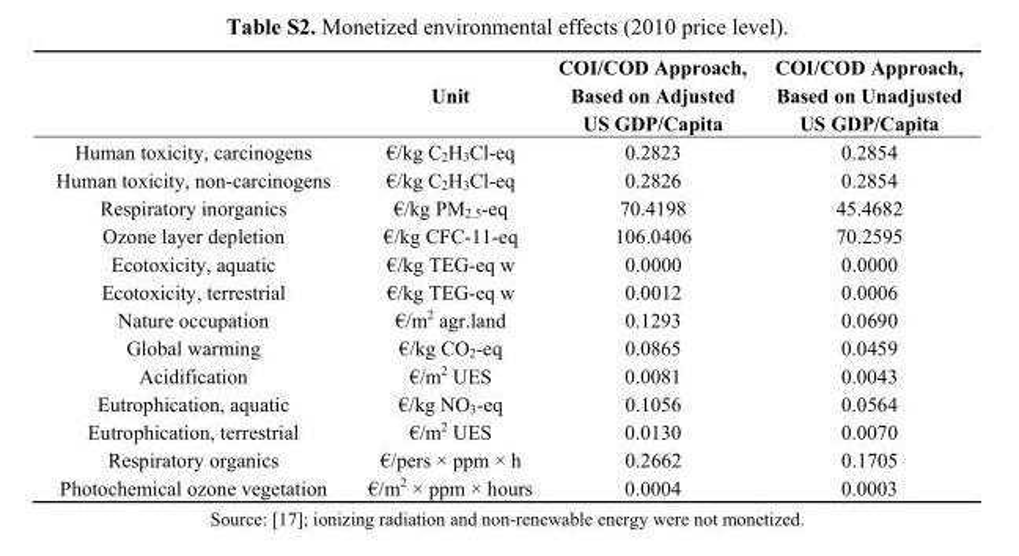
<table><thead><tr><td></td><td>Unit</td><td>COI/COD Approach, Based on Adjusted US GDP/Capita</td><td>COI/COD Approach, Based on Unadjusted US GDP/Capita</td></tr></thead><tbody><tr><td>Human toxicity, carcinogens</td><td>€/kg C<sub>2</sub>H<sub>3</sub>Cl-eq</td><td>0.2823</td><td>0.2854</td></tr><tr><td>Human toxicity, non-carcinogens</td><td>€/kg C<sub>2</sub>H<sub>3</sub>Cl-eq</td><td>0.2826</td><td>0.2854</td></tr><tr><td>Respiratory inorganics</td><td>€/kg PM<sub>2.5</sub>-eq</td><td>70.4198</td><td>45.4682</td></tr><tr><td>Ozone layer depletion</td><td>€/kg CFC-11-eq</td><td>106.0406</td><td>70.2595</td></tr><tr><td>Ecotoxicity, aquatic</td><td>€/kg TEG-eq w</td><td>0.0000</td><td>0.0000</td></tr><tr><td>Ecotoxicity, terrestrial</td><td>€/kg TEG-eq w</td><td>0.0012</td><td>0.0006</td></tr><tr><td>Nature occupation</td><td>€/m<sup>2</sup> agr.land</td><td>0.1293</td><td>0.0690</td></tr><tr><td>Global warming</td><td>€/kg CO<sub>2</sub>-eq</td><td>0.0865</td><td>0.0459</td></tr><tr><td>Acidification</td><td>€/m<sup>2</sup> UES</td><td>0.0081</td><td>0.0043</td></tr><tr><td>Eutrophication, aquatic</td><td>€/kg NO<sub>3</sub>-eq</td><td>0.1056</td><td>0.0564</td></tr><tr><td>Eutrophication, terrestrial</td><td>€/m<sup>2</sup> UES</td><td>0.0130</td><td>0.0070</td></tr><tr><td>Respiratory organics</td><td>€/pers × ppm × h</td><td>0.2662</td><td>0.1705</td></tr><tr><td>Photochemical ozone vegetation</td><td>€/m<sup>2</sup> × ppm × hours</td><td>0.0004</td><td>0.0003</td></tr></tbody></table>